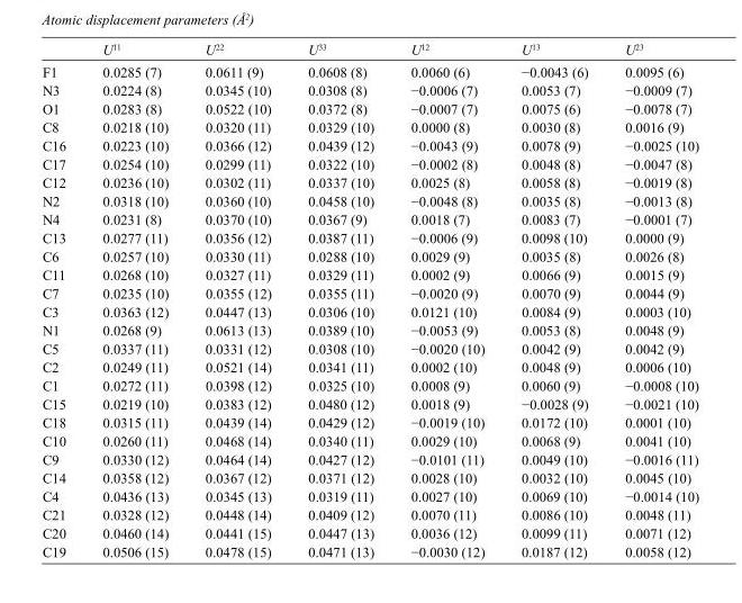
<table><thead><tr><td></td><td>U<sup>11</sup></td><td>U<sup>22</sup></td><td>U<sup>33</sup></td><td>U<sup>12</sup></td><td>U<sup>13</sup></td><td>U<sup>23</sup></td></tr></thead><tbody><tr><td>F1</td><td>0.0285 (7)</td><td>0.0611 (9)</td><td>0.0608 (8)</td><td>0.0060 (6)</td><td>−0.0043 (6)</td><td>0.0095 (6)</td></tr><tr><td>N3</td><td>0.0224 (8)</td><td>0.0345 (10)</td><td>0.0308 (8)</td><td>−0.0006 (7)</td><td>0.0053 (7)</td><td>−0.0009 (7)</td></tr><tr><td>O1</td><td>0.0283 (8)</td><td>0.0522 (10)</td><td>0.0372 (8)</td><td>−0.0007 (7)</td><td>0.0075 (6)</td><td>−0.0078 (7)</td></tr><tr><td>C8</td><td>0.0218 (10)</td><td>0.0320 (11)</td><td>0.0329 (10)</td><td>0.0000 (8)</td><td>0.0030 (8)</td><td>0.0016 (9)</td></tr><tr><td>C16</td><td>0.0223 (10)</td><td>0.0366 (12)</td><td>0.0439 (12)</td><td>−0.0043 (9)</td><td>0.0078 (9)</td><td>−0.0025 (10)</td></tr><tr><td>C17</td><td>0.0254 (10)</td><td>0.0299 (11)</td><td>0.0322 (10)</td><td>−0.0002 (8)</td><td>0.0048 (8)</td><td>−0.0047 (8)</td></tr><tr><td>C12</td><td>0.0236 (10)</td><td>0.0302 (11)</td><td>0.0337 (10)</td><td>0.0025 (8)</td><td>0.0058 (8)</td><td>−0.0019 (8)</td></tr><tr><td>N2</td><td>0.0318 (10)</td><td>0.0360 (10)</td><td>0.0458 (10)</td><td>−0.0048 (8)</td><td>0.0035 (8)</td><td>−0.0013 (8)</td></tr><tr><td>N4</td><td>0.0231 (8)</td><td>0.0370 (10)</td><td>0.0367 (9)</td><td>0.0018 (7)</td><td>0.0083 (7)</td><td>−0.0001 (7)</td></tr><tr><td>C13</td><td>0.0277 (11)</td><td>0.0356 (12)</td><td>0.0387 (11)</td><td>−0.0006 (9)</td><td>0.0098 (10)</td><td>0.0000 (9)</td></tr><tr><td>C6</td><td>0.0257 (10)</td><td>0.0330 (11)</td><td>0.0288 (10)</td><td>0.0029 (9)</td><td>0.0035 (8)</td><td>0.0026 (8)</td></tr><tr><td>C11</td><td>0.0268 (10)</td><td>0.0327 (11)</td><td>0.0329 (11)</td><td>0.0002 (9)</td><td>0.0066 (9)</td><td>0.0015 (9)</td></tr><tr><td>C7</td><td>0.0235 (10)</td><td>0.0355 (12)</td><td>0.0355 (11)</td><td>−0.0020 (9)</td><td>0.0070 (9)</td><td>0.0044 (9)</td></tr><tr><td>C3</td><td>0.0363 (12)</td><td>0.0447 (13)</td><td>0.0306 (10)</td><td>0.0121 (10)</td><td>0.0084 (9)</td><td>0.0003 (10)</td></tr><tr><td>N1</td><td>0.0268 (9)</td><td>0.0613 (13)</td><td>0.0389 (10)</td><td>−0.0053 (9)</td><td>0.0053 (8)</td><td>0.0048 (9)</td></tr><tr><td>C5</td><td>0.0337 (11)</td><td>0.0331 (12)</td><td>0.0308 (10)</td><td>−0.0020 (10)</td><td>0.0042 (9)</td><td>0.0042 (9)</td></tr><tr><td>C2</td><td>0.0249 (11)</td><td>0.0521 (14)</td><td>0.0341 (11)</td><td>0.0002 (10)</td><td>0.0048 (9)</td><td>0.0006 (10)</td></tr><tr><td>C1</td><td>0.0272 (11)</td><td>0.0398 (12)</td><td>0.0325 (10)</td><td>0.0008 (9)</td><td>0.0060 (9)</td><td>−0.0008 (10)</td></tr><tr><td>C15</td><td>0.0219 (10)</td><td>0.0383 (12)</td><td>0.0480 (12)</td><td>0.0018 (9)</td><td>−0.0028 (9)</td><td>−0.0021 (10)</td></tr><tr><td>C18</td><td>0.0315 (11)</td><td>0.0439 (14)</td><td>0.0429 (12)</td><td>−0.0019 (10)</td><td>0.0172 (10)</td><td>0.0001 (10)</td></tr><tr><td>C10</td><td>0.0260 (11)</td><td>0.0468 (14)</td><td>0.0340 (11)</td><td>0.0029 (10)</td><td>0.0068 (9)</td><td>0.0041 (10)</td></tr><tr><td>C9</td><td>0.0330 (12)</td><td>0.0464 (14)</td><td>0.0427 (12)</td><td>−0.0101 (11)</td><td>0.0049 (10)</td><td>−0.0016 (11)</td></tr><tr><td>C14</td><td>0.0358 (12)</td><td>0.0367 (12)</td><td>0.0371 (12)</td><td>0.0028 (10)</td><td>0.0032 (10)</td><td>0.0045 (10)</td></tr><tr><td>C4</td><td>0.0436 (13)</td><td>0.0345 (13)</td><td>0.0319 (11)</td><td>0.0027 (10)</td><td>0.0069 (10)</td><td>−0.0014 (10)</td></tr><tr><td>C21</td><td>0.0328 (12)</td><td>0.0448 (14)</td><td>0.0409 (12)</td><td>0.0070 (11)</td><td>0.0086 (10)</td><td>0.0048 (11)</td></tr><tr><td>C20</td><td>0.0460 (14)</td><td>0.0441 (15)</td><td>0.0447 (13)</td><td>0.0036 (12)</td><td>0.0099 (11)</td><td>0.0071 (12)</td></tr><tr><td>C19</td><td>0.0506 (15)</td><td>0.0478 (15)</td><td>0.0471 (13)</td><td>−0.0030 (12)</td><td>0.0187 (12)</td><td>0.0058 (12)</td></tr></tbody></table>